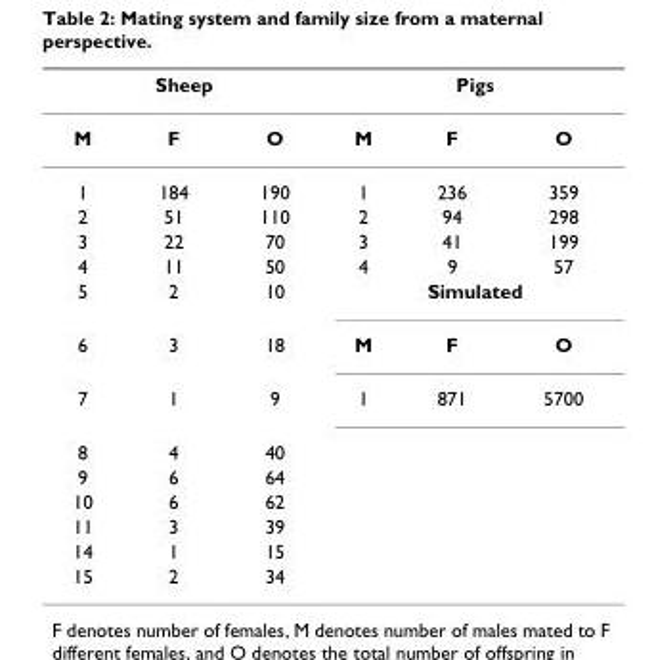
<table><thead><tr><td colspan="3">Sheep</td><td colspan="3">Pigs</td></tr><tr><td>M</td><td>F</td><td>O</td><td>M</td><td>F</td><td>O</td></tr></thead><tbody><tr><td>1</td><td>184</td><td>190</td><td>1</td><td>236</td><td>359</td></tr><tr><td>2</td><td>51</td><td>110</td><td>2</td><td>94</td><td>298</td></tr><tr><td>3</td><td>22</td><td>70</td><td>3</td><td>41</td><td>199</td></tr><tr><td>4</td><td>11</td><td>50</td><td>4</td><td>9</td><td>57</td></tr><tr><td>5</td><td>2</td><td>10</td><td colspan="3">Simulated</td></tr><tr><td>6</td><td>3</td><td>18</td><td>M</td><td>F</td><td>O</td></tr><tr><td>7</td><td>1</td><td>9</td><td>1</td><td>871</td><td>5700</td></tr><tr><td>8</td><td>4</td><td>40</td><td></td><td></td><td></td></tr><tr><td>9</td><td>6</td><td>64</td><td></td><td></td><td></td></tr><tr><td>10</td><td>6</td><td>62</td><td></td><td></td><td></td></tr><tr><td>11</td><td>3</td><td>39</td><td></td><td></td><td></td></tr><tr><td>14</td><td>1</td><td>15</td><td></td><td></td><td></td></tr><tr><td>15</td><td>2</td><td>34</td><td></td><td></td><td></td></tr></tbody></table>